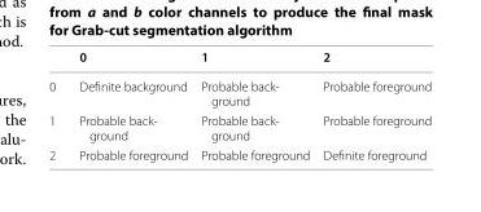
<table><thead><tr><td></td><td>0</td><td>1</td><td>2</td></tr></thead><tbody><tr><td>0</td><td>Definite background</td><td>Probable back- ground</td><td>Probable foreground</td></tr><tr><td>1</td><td>Probable back- ground</td><td>Probable back- ground</td><td>Probable foreground</td></tr><tr><td>2</td><td>Probable foreground</td><td>Probable foreground</td><td>Definite foreground</td></tr></tbody></table>